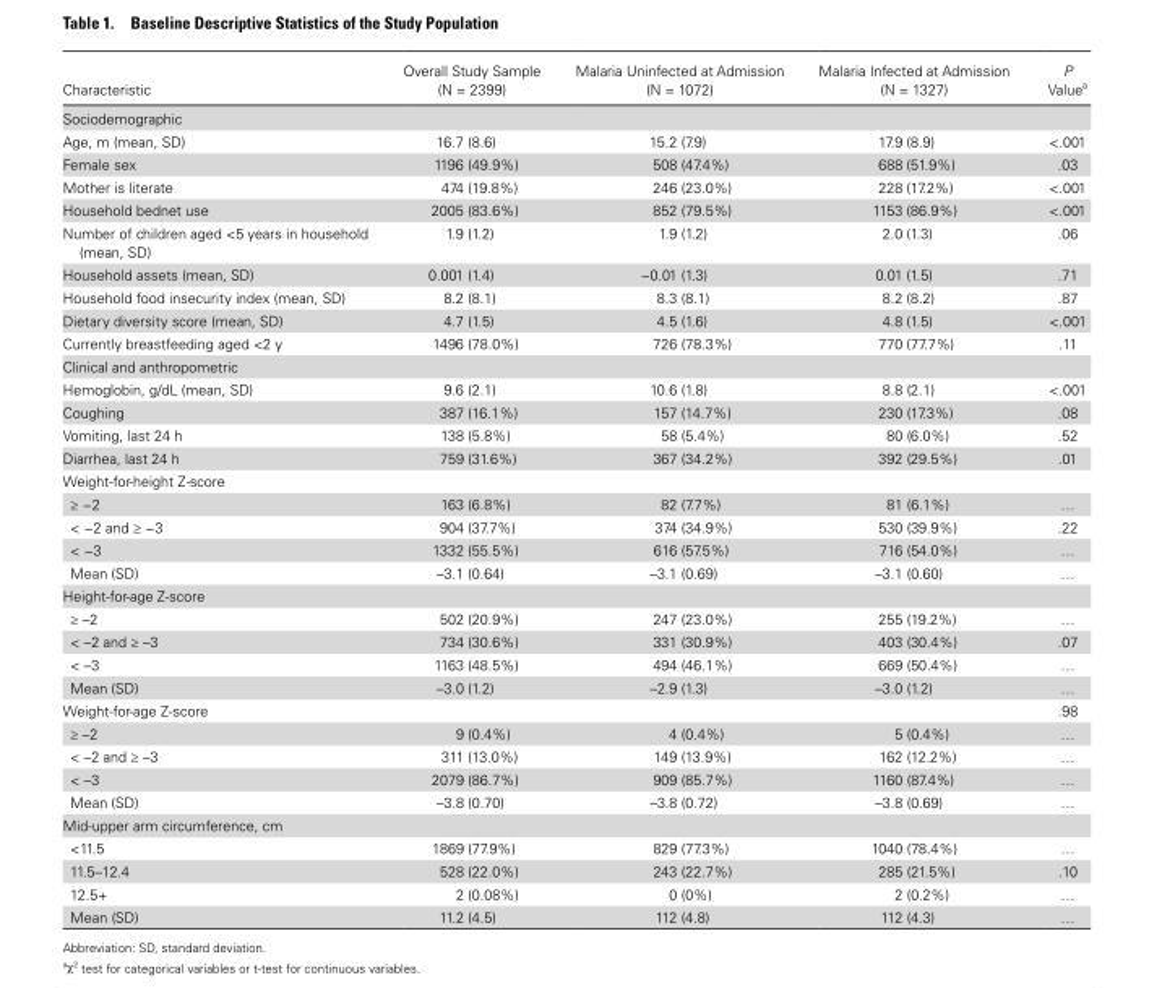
<table><thead><tr><td>Characteristic</td><td>Overall Study Sample (N = 2399)</td><td>Malaria Uninfected at Admission (N = 1072)</td><td>Malaria Infected at Admission (N = 1327)</td><td>P Value<sup>a</sup></td></tr></thead><tbody><tr><td colspan="5">Sociodemographic</td></tr><tr><td>Age, m (mean, SD)</td><td>16.7 (8.6)</td><td>15.2 (7.9)</td><td>17.9 (8.9)</td><td>&lt;.001</td></tr><tr><td>Female sex</td><td>1196 (49.9%)</td><td>508 (47.4%)</td><td>688 (51.9%)</td><td>.03</td></tr><tr><td>Mother is literate</td><td>474 (19.8%)</td><td>246 (23.0%)</td><td>228 (17.2%)</td><td>&lt;.001</td></tr><tr><td>Household bednet use</td><td>2005 (83.6%)</td><td>852 (79.5%)</td><td>1153 (86.9%)</td><td>&lt;.001</td></tr><tr><td>Number of children aged &lt;5 years in household (mean, SD)</td><td>1.9 (1.2)</td><td>1.9 (1.2)</td><td>2.0 (1.3)</td><td>.06</td></tr><tr><td>Household assets (mean, SD)</td><td>0.001 (1.4)</td><td>−0.01 (1.3)</td><td>0.01 (1.5)</td><td>.71</td></tr><tr><td>Household food insecurity index (mean, SD)</td><td>8.2 (8.1)</td><td>8.3 (8.1)</td><td>8.2 (8.2)</td><td>.87</td></tr><tr><td>Dietary diversity score (mean, SD)</td><td>4.7 (1.5)</td><td>4.5 (1.6)</td><td>4.8 (1.5)</td><td>&lt;.001</td></tr><tr><td>Currently breastfeeding aged &lt;2 y</td><td>1496 (78.0%)</td><td>726 (78.3%)</td><td>770 (77.7%)</td><td>.11</td></tr><tr><td colspan="5">Clinical and anthropometric</td></tr><tr><td>Hemoglobin, g/dL (mean, SD)</td><td>9.6 (2.1)</td><td>10.6 (1.8)</td><td>8.8 (2.1)</td><td>&lt;.001</td></tr><tr><td>Coughing</td><td>387 (16.1%)</td><td>157 (14.7%)</td><td>230 (17.3%)</td><td>.08</td></tr><tr><td>Vomiting, last 24 h</td><td>138 (5.8%)</td><td>58 (5.4%)</td><td>80 (6.0%)</td><td>.52</td></tr><tr><td>Diarrhea, last 24 h</td><td>759 (31.6%)</td><td>367 (34.2%)</td><td>392 (29.5%)</td><td>.01</td></tr><tr><td colspan="5">Weight-for-height Z-score</td></tr><tr><td>≥ −2</td><td>163 (6.8%)</td><td>82 (7.7%)</td><td>81 (6.1%)</td><td>…</td></tr><tr><td>&lt; −2 and ≥ −3</td><td>904 (37.7%)</td><td>374 (34.9%)</td><td>530 (39.9%)</td><td>.22</td></tr><tr><td>&lt; −3</td><td>1332 (55.5%)</td><td>616 (57.5%)</td><td>716 (54.0%)</td><td>…</td></tr><tr><td>Mean (SD)</td><td>–3.1 (0.64)</td><td>–3.1 (0.69)</td><td>–3.1 (0.60)</td><td>…</td></tr><tr><td colspan="5">Height-for-age Z-score</td></tr><tr><td>≥ –2</td><td>502 (20.9%)</td><td>247 (23.0%)</td><td>255 (19.2%)</td><td>…</td></tr><tr><td>&lt; –2 and ≥ –3</td><td>734 (30.6%)</td><td>331 (30.9%)</td><td>403 (30.4%)</td><td>.07</td></tr><tr><td>&lt; –3</td><td>1163 (48.5%)</td><td>494 (46.1%)</td><td>669 (50.4%)</td><td>…</td></tr><tr><td>Mean (SD)</td><td>–3.0 (1.2)</td><td>–2.9 (1.3)</td><td>–3.0 (1.2)</td><td>…</td></tr><tr><td>Weight-for-age Z-score</td><td></td><td></td><td></td><td>.98</td></tr><tr><td>≥ –2</td><td>9 (0.4%)</td><td>4 (0.4%)</td><td>5 (0.4%)</td><td>…</td></tr><tr><td>&lt; –2 and ≥ –3</td><td>311 (13.0%)</td><td>149 (13.9%)</td><td>162 (12.2%)</td><td>…</td></tr><tr><td>&lt; –3</td><td>2079 (86.7%)</td><td>909 (85.7%)</td><td>1160 (87.4%)</td><td>…</td></tr><tr><td>Mean (SD)</td><td>–3.8 (0.70)</td><td>–3.8 (0.72)</td><td>–3.8 (0.69)</td><td>…</td></tr><tr><td colspan="5">Mid-upper arm circumference, cm</td></tr><tr><td>&lt;11.5</td><td>1869 (77.9%)</td><td>829 (77.3%)</td><td>1040 (78.4%)</td><td>…</td></tr><tr><td>11.5–12.4</td><td>528 (22.0%)</td><td>243 (22.7%)</td><td>285 (21.5%)</td><td>.10</td></tr><tr><td>12.5+</td><td>2 (0.08%)</td><td>0 (0%)</td><td>2 (0.2%)</td><td>…</td></tr><tr><td>Mean (SD)</td><td>11.2 (4.5)</td><td>112 (4.8)</td><td>112 (4.3)</td><td>…</td></tr></tbody></table>